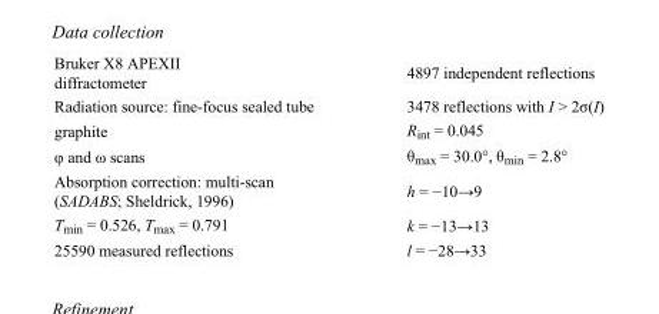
<table><tbody><tr><td>Bruker X8 APEXII diffractometer</td><td>4897 independent reflections</td></tr><tr><td>Radiation source: fine-focus sealed tube</td><td>3478 reflections with I &gt; 2σ(I)</td></tr><tr><td>graphite</td><td>R<sub>int</sub> = 0.045</td></tr><tr><td>φ and ω scans</td><td>θ<sub>max</sub> = 30.0°, θ<sub>min</sub> = 2.8°</td></tr><tr><td>Absorption correction: multi-scan (SADABS; Sheldrick, 1996)</td><td>h = −10→9</td></tr><tr><td>T<sub>min</sub> = 0.526, T<sub>max</sub> = 0.791</td><td>k = −13→13</td></tr><tr><td>25590 measured reflections</td><td>l = −28→33</td></tr></tbody></table>